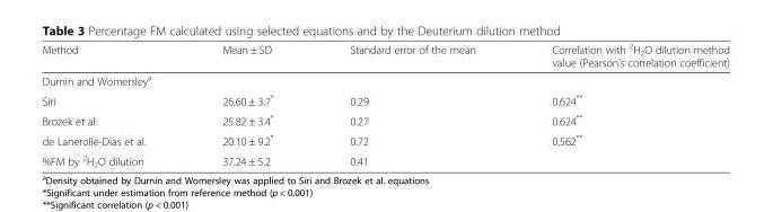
<table><thead><tr><td>Method</td><td>Mean ± SD</td><td>Standard error of the mean</td><td>Correlation with <sup>2</sup>H<sub>2</sub>O dilution method value (Pearson’s correlation coefficient)</td></tr></thead><tbody><tr><td colspan="4">Durnin and Womersley<sup>a</sup></td></tr><tr><td>Siri</td><td>26.60 ± 3.7*</td><td>0.29</td><td>0.624**</td></tr><tr><td>Brozek et al</td><td>25.82 ± 3.4*</td><td>0.27</td><td>0.624**</td></tr><tr><td>de Lanerolle-Dias et al.</td><td>20.10 ± 9.2*</td><td>0.72</td><td>0.562**</td></tr><tr><td>%FM by <sup>2</sup>H<sub>2</sub>O dilution</td><td>37.24 ± 5.2</td><td>0.41</td><td></td></tr></tbody></table>